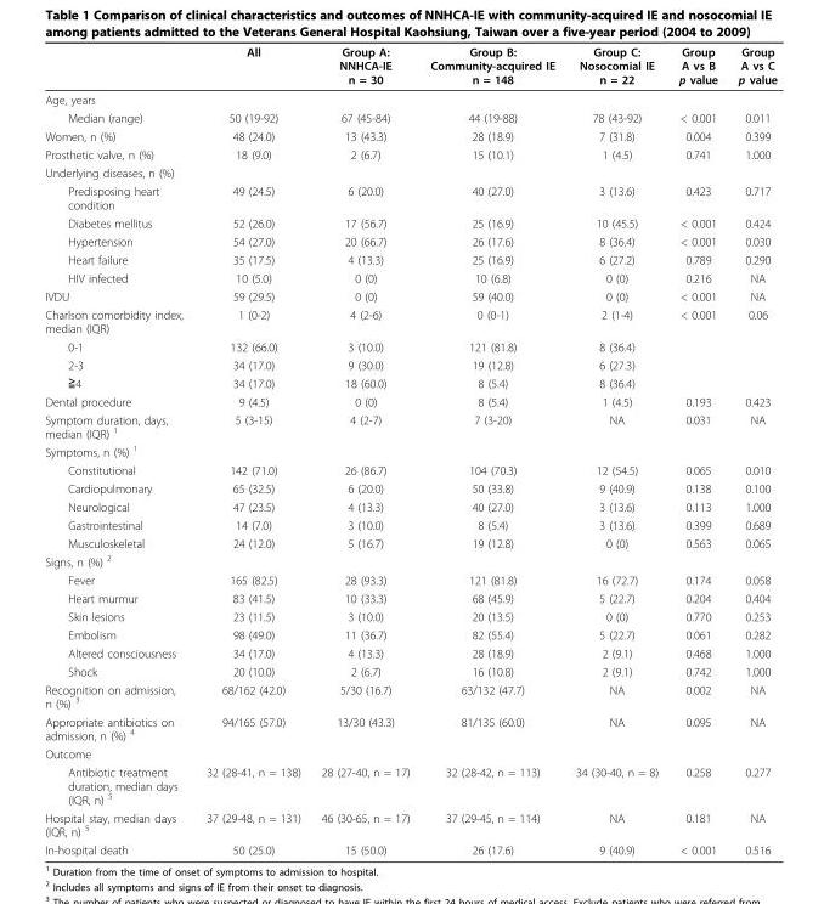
<table><thead><tr><td></td><td>All</td><td>Group A: NNHCA-IE n = 30</td><td>Group B: Community-acquired IE n = 148</td><td>Group C: Nosocomial IE n = 22</td><td>Group A vs B p value</td><td>Group A vs C p value</td></tr></thead><tbody><tr><td colspan="7">Age, years</td></tr><tr><td>Median (range)</td><td>50 (19-92)</td><td>67 (45-84)</td><td>44 (19-88)</td><td>78 (43-92)</td><td>&lt; 0.001</td><td>0.011</td></tr><tr><td>Women, n (%)</td><td>48 (24.0)</td><td>13 (43.3)</td><td>28 (18.9)</td><td>7 (31.8)</td><td>0.004</td><td>0.399</td></tr><tr><td>Prosthetic valve, n (%)</td><td>18 (9.0)</td><td>2 (6.7)</td><td>15 (10.1)</td><td>1 (4.5)</td><td>0.741</td><td>1.000</td></tr><tr><td colspan="7">Underlying diseases, n (%)</td></tr><tr><td>Predisposing heart condition</td><td>49 (24.5)</td><td>6 (20.0)</td><td>40 (27.0)</td><td>3 (13.6)</td><td>0.423</td><td>0.717</td></tr><tr><td>Diabetes mellitus</td><td>52 (26.0)</td><td>17 (56.7)</td><td>25 (16.9)</td><td>10 (45.5)</td><td>&lt; 0.001</td><td>0.424</td></tr><tr><td>Hypertension</td><td>54 (27.0)</td><td>20 (66.7)</td><td>26 (17.6)</td><td>8 (36.4)</td><td>&lt; 0.001</td><td>0.030</td></tr><tr><td>Heart failure</td><td>35 (17.5)</td><td>4 (13.3)</td><td>25 (16.9)</td><td>6 (27.2)</td><td>0.789</td><td>0.290</td></tr><tr><td>HIV infected</td><td>10 (5.0)</td><td>0 (0)</td><td>10 (6.8)</td><td>0 (0)</td><td>0.216</td><td>NA</td></tr><tr><td>IVDU</td><td>59 (29.5)</td><td>0 (0)</td><td>59 (40.0)</td><td>0 (0)</td><td>&lt; 0.001</td><td>NA</td></tr><tr><td>Charlson comorbidity index, median (IQR)</td><td>1 (0-2)</td><td>4 (2-6)</td><td>0 (0-1)</td><td>2 (1-4)</td><td>&lt; 0.001</td><td>0.06</td></tr><tr><td>0-1</td><td>132 (66.0)</td><td>3 (10.0)</td><td>121 (81.8)</td><td>8 (36.4)</td><td></td><td></td></tr><tr><td>2-3</td><td>34 (17.0)</td><td>9 (30.0)</td><td>19 (12.8)</td><td>6 (27.3)</td><td></td><td></td></tr><tr><td>≧4</td><td>34 (17.0)</td><td>18 (60.0)</td><td>8 (5.4)</td><td>8 (36.4)</td><td></td><td></td></tr><tr><td>Dental procedure</td><td>9 (4.5)</td><td>0 (0)</td><td>8 (5.4)</td><td>1 (4.5)</td><td>0.193</td><td>0.423</td></tr><tr><td>Symptom duration, days, median (IQR) <sup>1</sup></td><td>5 (3-15)</td><td>4 (2-7)</td><td>7 (3-20)</td><td>NA</td><td>0.031</td><td>NA</td></tr><tr><td colspan="7">Symptoms, n (%) <sup>1</sup></td></tr><tr><td>Constitutional</td><td>142 (71.0)</td><td>26 (86.7)</td><td>104 (70.3)</td><td>12 (54.5)</td><td>0.065</td><td>0.010</td></tr><tr><td>Cardiopulmonary</td><td>65 (32.5)</td><td>6 (20.0)</td><td>50 (33.8)</td><td>9 (40.9)</td><td>0.138</td><td>0.100</td></tr><tr><td>Neurological</td><td>47 (23.5)</td><td>4 (13.3)</td><td>40 (27.0)</td><td>3 (13.6)</td><td>0.113</td><td>1.000</td></tr><tr><td>Gastrointestinal</td><td>14 (7.0)</td><td>3 (10.0)</td><td>8 (5.4)</td><td>3 (13.6)</td><td>0.399</td><td>0.689</td></tr><tr><td>Musculoskeletal</td><td>24 (12.0)</td><td>5 (16.7)</td><td>19 (12.8)</td><td>0 (0)</td><td>0.563</td><td>0.065</td></tr><tr><td colspan="7">Signs, n (%) <sup>2</sup></td></tr><tr><td>Fever</td><td>165 (82.5)</td><td>28 (93.3)</td><td>121 (81.8)</td><td>16 (72.7)</td><td>0.174</td><td>0.058</td></tr><tr><td>Heart murmur</td><td>83 (41.5)</td><td>10 (33.3)</td><td>68 (45.9)</td><td>5 (22.7)</td><td>0.204</td><td>0.404</td></tr><tr><td>Skin lesions</td><td>23 (11.5)</td><td>3 (10.0)</td><td>20 (13.5)</td><td>0 (0)</td><td>0.770</td><td>0.253</td></tr><tr><td>Embolism</td><td>98 (49.0)</td><td>11 (36.7)</td><td>82 (55.4)</td><td>5 (22.7)</td><td>0.061</td><td>0.282</td></tr><tr><td>Altered consciousness</td><td>34 (17.0)</td><td>4 (13.3)</td><td>28 (18.9)</td><td>2 (9.1)</td><td>0.468</td><td>1.000</td></tr><tr><td>Shock</td><td>20 (10.0)</td><td>2 (6.7)</td><td>16 (10.8)</td><td>2 (9.1)</td><td>0.742</td><td>1.000</td></tr><tr><td>Recognition on admission, n (%) <sup>3</sup></td><td>68/162 (42.0)</td><td>5/30 (16.7)</td><td>63/132 (47.7)</td><td>NA</td><td>0.002</td><td>NA</td></tr><tr><td>Appropriate antibiotics on admission, n (%) <sup>4</sup></td><td>94/165 (57.0)</td><td>13/30 (43.3)</td><td>81/135 (60.0)</td><td>NA</td><td>0.095</td><td>NA</td></tr><tr><td colspan="7">Outcome</td></tr><tr><td>Antibiotic treatment duration, median days (IQR, n) <sup>5</sup></td><td>32 (28-41, n = 138)</td><td>28 (27-40, n = 17)</td><td>32 (28-42, n = 113)</td><td>34 (30-40, n = 8)</td><td>0.258</td><td>0.277</td></tr><tr><td>Hospital stay, median days (IQR, n) <sup>5</sup></td><td>37 (29-48, n = 131)</td><td>46 (30-65, n = 17)</td><td>37 (29-45, n = 114)</td><td>NA</td><td>0.181</td><td>NA</td></tr><tr><td>In-hospital death</td><td>50 (25.0)</td><td>15 (50.0)</td><td>26 (17.6)</td><td>9 (40.9)</td><td>&lt; 0.001</td><td>0.516</td></tr></tbody></table>